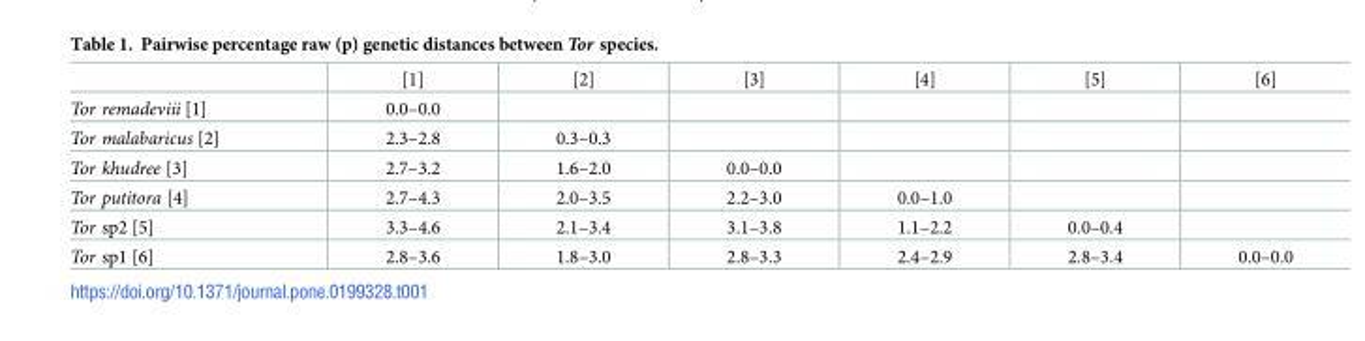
<table><thead><tr><td></td><td>[1]</td><td>[2]</td><td>[3]</td><td>[4]</td><td>[5]</td><td>[6]</td></tr></thead><tbody><tr><td>Tor remadeviii [1]</td><td>0.0–0.0</td><td></td><td></td><td></td><td></td><td></td></tr><tr><td>Tor malabaricus [2]</td><td>2.3–2.8</td><td>0.3–0.3</td><td></td><td></td><td></td><td></td></tr><tr><td>Tor khudree [3]</td><td>2.7–3.2</td><td>1.6–2.0</td><td>0.0–0.0</td><td></td><td></td><td></td></tr><tr><td>Tor putitora [4]</td><td>2.7–4.3</td><td>2.0–3.5</td><td>2.2–3.0</td><td>0.0–1.0</td><td></td><td></td></tr><tr><td>Tor sp2 [5]</td><td>3.3–4.6</td><td>2.1–3.4</td><td>3.1–3.8</td><td>1.1–2.2</td><td>0.0–0.4</td><td></td></tr><tr><td>Tor sp1 [6]</td><td>2.8–3.6</td><td>1.8–3.0</td><td>2.8–3.3</td><td>2.4–2.9</td><td>2.8–3.4</td><td>0.0–0.0</td></tr></tbody></table>